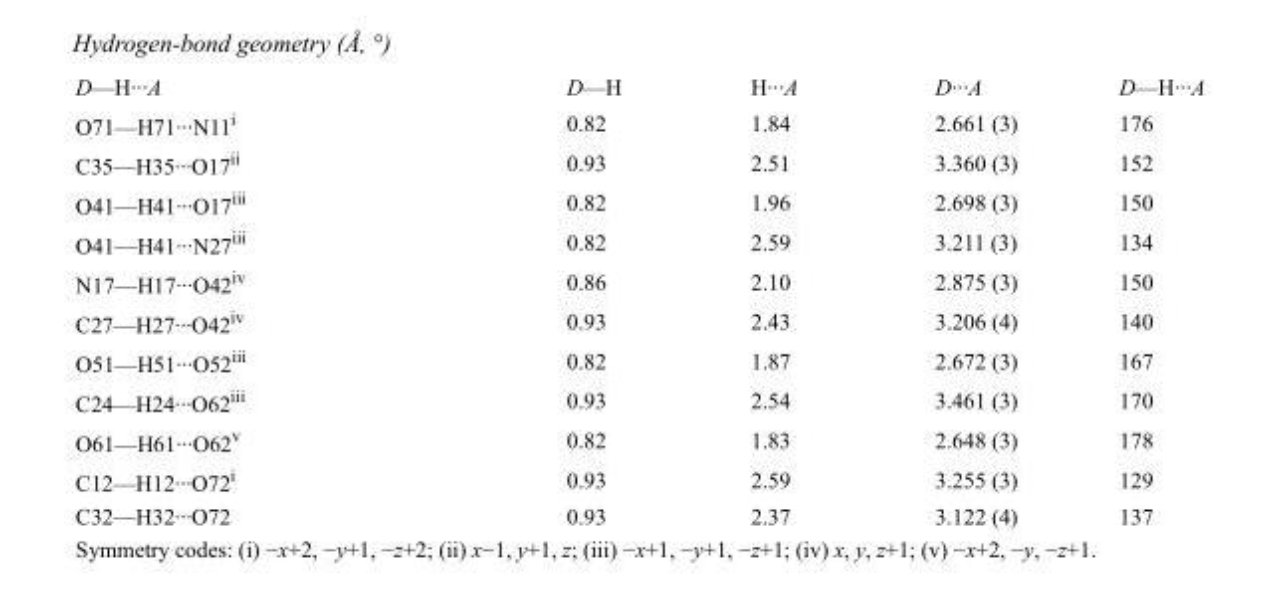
<table><tbody><tr><td>D—H···A</td><td>D—H</td><td>H···A</td><td>D···A</td><td>D—H···A</td></tr><tr><td>O71—H71···N11<sup>i</sup></td><td>0.82</td><td>1.84</td><td>2.661 (3)</td><td>176</td></tr><tr><td>C35—H35···O17<sup>ii</sup></td><td>0.93</td><td>2.51</td><td>3.360 (3)</td><td>152</td></tr><tr><td>O41—H41···O17<sup>iii</sup></td><td>0.82</td><td>1.96</td><td>2.698 (3)</td><td>150</td></tr><tr><td>O41—H41···N27<sup>iii</sup></td><td>0.82</td><td>2.59</td><td>3.211 (3)</td><td>134</td></tr><tr><td>N17—H17···O42<sup>iv</sup></td><td>0.86</td><td>2.10</td><td>2.875 (3)</td><td>150</td></tr><tr><td>C27—H27···O42<sup>iv</sup></td><td>0.93</td><td>2.43</td><td>3.206 (4)</td><td>140</td></tr><tr><td>O51—H51···O52<sup>iii</sup></td><td>0.82</td><td>1.87</td><td>2.672 (3)</td><td>167</td></tr><tr><td>C24—H24···O62<sup>iii</sup></td><td>0.93</td><td>2.54</td><td>3.461 (3)</td><td>170</td></tr><tr><td>O61—H61···O62<sup>v</sup></td><td>0.82</td><td>1.83</td><td>2.648 (3)</td><td>178</td></tr><tr><td>C12—H12···O72<sup>i</sup></td><td>0.93</td><td>2.59</td><td>3.255 (3)</td><td>129</td></tr><tr><td>C32—H32···O72</td><td>0.93</td><td>2.37</td><td>3.122 (4)</td><td>137</td></tr></tbody></table>